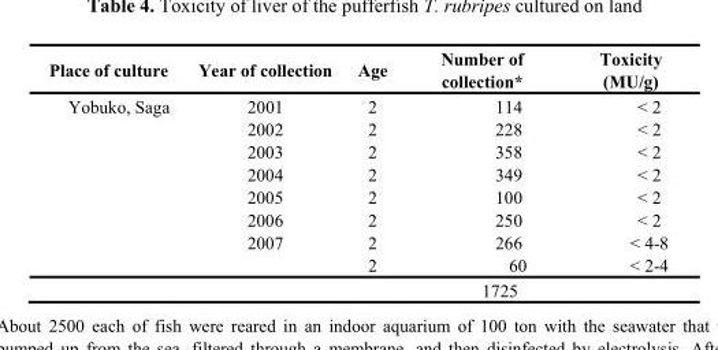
<table><thead><tr><td>Place of culture</td><td>Year of collection</td><td>Age</td><td>Number of collection*</td><td>Toxicity (MU/g)</td></tr></thead><tbody><tr><td rowspan="9">Yobuko, Saga</td><td>2001</td><td>2</td><td>114</td><td>&lt; 2</td></tr><tr><td>2002</td><td>2</td><td>228</td><td>&lt; 2</td></tr><tr><td>2003</td><td>2</td><td>358</td><td>&lt; 2</td></tr><tr><td>2004</td><td>2</td><td>349</td><td>&lt; 2</td></tr><tr><td>2005</td><td>2</td><td>100</td><td>&lt; 2</td></tr><tr><td>2006</td><td>2</td><td>250</td><td>&lt; 2</td></tr><tr><td>2007</td><td>2</td><td>266</td><td>&lt; 4-8</td></tr><tr><td></td><td>2</td><td>60</td><td>&lt; 2-4</td></tr><tr><td></td><td></td><td>1725</td><td></td></tr></tbody></table>